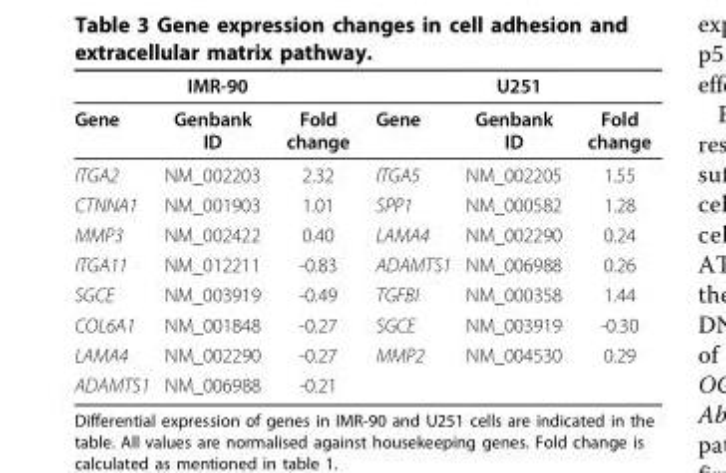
<table><thead><tr><td colspan="3">IMR-90</td><td colspan="3">U251</td></tr><tr><td>Gene</td><td>Genbank ID</td><td>Fold change</td><td>Gene</td><td>Genbank ID</td><td>Fold change</td></tr></thead><tbody><tr><td>ITGA2</td><td>NM_002203</td><td>2.32</td><td>ITGA5</td><td>NM_002205</td><td>1.55</td></tr><tr><td>CTNNA1</td><td>NM_001903</td><td>1.01</td><td>SPP1</td><td>NM_000582</td><td>1.28</td></tr><tr><td>MMP3</td><td>NM_002422</td><td>0.40</td><td>LAMA4</td><td>NM_002290</td><td>0.24</td></tr><tr><td>ITGA11</td><td>NM_012211</td><td>-0.83</td><td>ADAMTS1</td><td>NM_006988</td><td>0.26</td></tr><tr><td>SGCE</td><td>NM_003919</td><td>-0.49</td><td>TGFBI</td><td>NM_000358</td><td>1.44</td></tr><tr><td>COL6A1</td><td>NM_001848</td><td>-0.27</td><td>SGCE</td><td>NM_003919</td><td>-0.30</td></tr><tr><td>LAMA4</td><td>NM_002290</td><td>-0.27</td><td>MMP2</td><td>NM_004530</td><td>0.29</td></tr><tr><td>ADAMTS1</td><td>NM_006988</td><td>-0.21</td><td></td><td></td><td></td></tr></tbody></table>